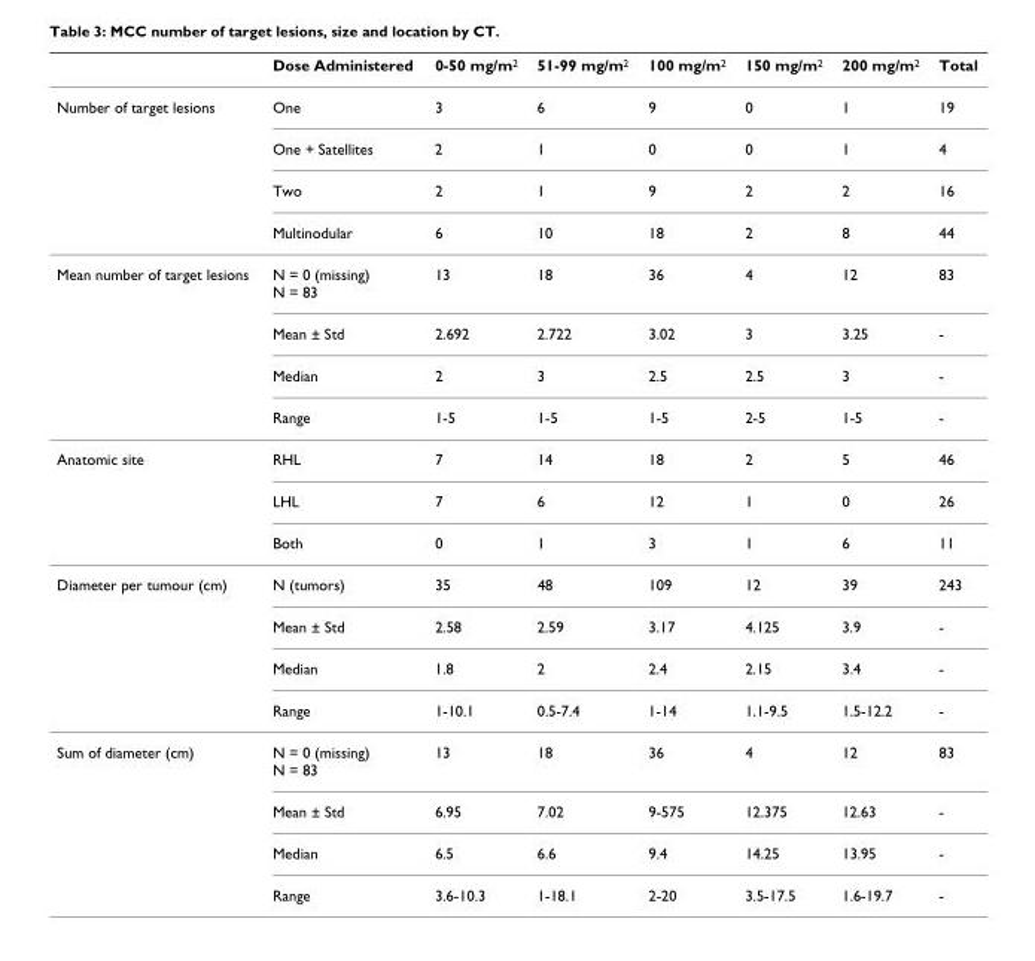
<table><thead><tr><td></td><td>Dose Administered</td><td>0-50 mg/m<sup>2</sup></td><td>51-99 mg/m<sup>2</sup></td><td>100 mg/m<sup>2</sup></td><td>150 mg/m<sup>2</sup></td><td>200 mg/m<sup>2</sup></td><td>Total</td></tr></thead><tbody><tr><td rowspan="4">Number of target lesions</td><td>One</td><td>3</td><td>6</td><td>9</td><td>0</td><td>1</td><td>19</td></tr><tr><td>One + Satellites</td><td>2</td><td>1</td><td>0</td><td>0</td><td>1</td><td>4</td></tr><tr><td>Two</td><td>2</td><td>1</td><td>9</td><td>2</td><td>2</td><td>16</td></tr><tr><td>Multinodular</td><td>6</td><td>10</td><td>18</td><td>2</td><td>8</td><td>44</td></tr><tr><td rowspan="4">Mean number of target lesions</td><td>N = 0 (missing) N = 83</td><td>13</td><td>18</td><td>36</td><td>4</td><td>12</td><td>83</td></tr><tr><td>Mean ± Std</td><td>2.692</td><td>2.722</td><td>3.02</td><td>3</td><td>3.25</td><td>-</td></tr><tr><td>Median</td><td>2</td><td>3</td><td>2.5</td><td>2.5</td><td>3</td><td>-</td></tr><tr><td>Range</td><td>1-5</td><td>1-5</td><td>1-5</td><td>2-5</td><td>1-5</td><td>-</td></tr><tr><td rowspan="3">Anatomic site</td><td>RHL</td><td>7</td><td>14</td><td>18</td><td>2</td><td>5</td><td>46</td></tr><tr><td>LHL</td><td>7</td><td>6</td><td>12</td><td>1</td><td>0</td><td>26</td></tr><tr><td>Both</td><td>0</td><td>1</td><td>3</td><td>1</td><td>6</td><td>11</td></tr><tr><td rowspan="4">Diameter per tumour (cm)</td><td>N (tumors)</td><td>35</td><td>48</td><td>109</td><td>12</td><td>39</td><td>243</td></tr><tr><td>Mean ± Std</td><td>2.58</td><td>2.59</td><td>3.17</td><td>4.125</td><td>3.9</td><td>-</td></tr><tr><td>Median</td><td>1.8</td><td>2</td><td>2.4</td><td>2.15</td><td>3.4</td><td>-</td></tr><tr><td>Range</td><td>1-10.1</td><td>0.5-7.4</td><td>1-14</td><td>1.1-9.5</td><td>1.5-12.2</td><td>-</td></tr><tr><td rowspan="4">Sum of diameter (cm)</td><td>N = 0 (missing) N = 83</td><td>13</td><td>18</td><td>36</td><td>4</td><td>12</td><td>83</td></tr><tr><td>Mean ± Std</td><td>6.95</td><td>7.02</td><td>9-575</td><td>12.375</td><td>12.63</td><td>-</td></tr><tr><td>Median</td><td>6.5</td><td>6.6</td><td>9.4</td><td>14.25</td><td>13.95</td><td>-</td></tr><tr><td>Range</td><td>3.6-10.3</td><td>1-18.1</td><td>2-20</td><td>3.5-17.5</td><td>1.6-19.7</td><td>-</td></tr></tbody></table>